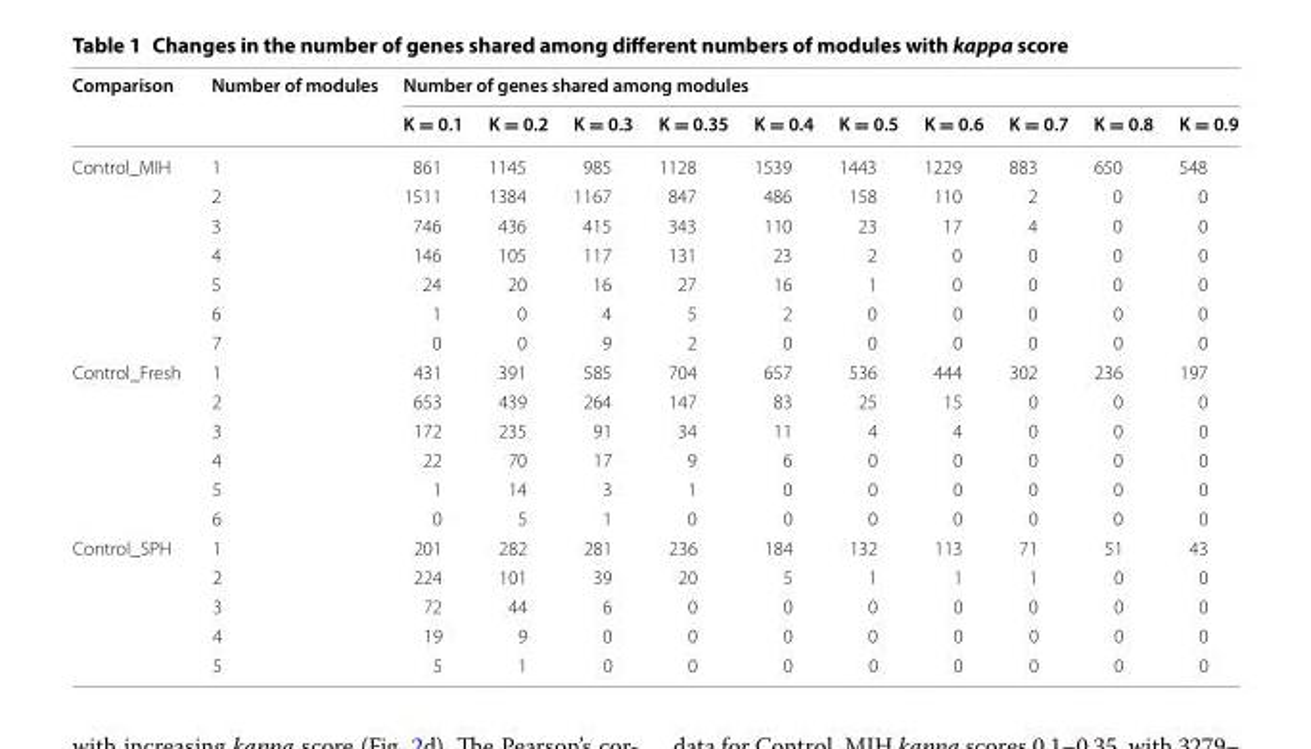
<table><thead><tr><td rowspan="2">Comparison</td><td rowspan="2">Number of modules</td><td colspan="10">Number of genes shared among modules</td></tr><tr><td>K = 0.1</td><td>K = 0.2</td><td>K = 0.3</td><td>K = 0.35</td><td>K = 0.4</td><td>K = 0.5</td><td>K = 0.6</td><td>K = 0.7</td><td>K = 0.8</td><td>K = 0.9</td></tr></thead><tbody><tr><td rowspan="7">Control_MIH</td><td>1</td><td>861</td><td>1145</td><td>985</td><td>1128</td><td>1539</td><td>1443</td><td>1229</td><td>883</td><td>650</td><td>548</td></tr><tr><td>2</td><td>1511</td><td>1384</td><td>1167</td><td>847</td><td>486</td><td>158</td><td>110</td><td>2</td><td>0</td><td>0</td></tr><tr><td>3</td><td>746</td><td>436</td><td>415</td><td>343</td><td>110</td><td>23</td><td>17</td><td>4</td><td>0</td><td>0</td></tr><tr><td>4</td><td>146</td><td>105</td><td>117</td><td>131</td><td>23</td><td>2</td><td>0</td><td>0</td><td>0</td><td>0</td></tr><tr><td>5</td><td>24</td><td>20</td><td>16</td><td>27</td><td>16</td><td>1</td><td>0</td><td>0</td><td>0</td><td>0</td></tr><tr><td>6</td><td>1</td><td>0</td><td>4</td><td>5</td><td>2</td><td>0</td><td>0</td><td>0</td><td>0</td><td>0</td></tr><tr><td>7</td><td>0</td><td>0</td><td>9</td><td>2</td><td>0</td><td>0</td><td>0</td><td>0</td><td>0</td><td>0</td></tr><tr><td rowspan="6">Control_Fresh</td><td>1</td><td>431</td><td>391</td><td>585</td><td>704</td><td>657</td><td>536</td><td>444</td><td>302</td><td>236</td><td>197</td></tr><tr><td>2</td><td>653</td><td>439</td><td>264</td><td>147</td><td>83</td><td>25</td><td>15</td><td>0</td><td>0</td><td>0</td></tr><tr><td>3</td><td>172</td><td>235</td><td>91</td><td>34</td><td>11</td><td>4</td><td>4</td><td>0</td><td>0</td><td>0</td></tr><tr><td>4</td><td>22</td><td>70</td><td>17</td><td>9</td><td>6</td><td>0</td><td>0</td><td>0</td><td>0</td><td>0</td></tr><tr><td>5</td><td>1</td><td>14</td><td>3</td><td>1</td><td>0</td><td>0</td><td>0</td><td>0</td><td>0</td><td>0</td></tr><tr><td>6</td><td>0</td><td>5</td><td>1</td><td>0</td><td>0</td><td>0</td><td>0</td><td>0</td><td>0</td><td>0</td></tr><tr><td rowspan="5">Control_SPH</td><td>1</td><td>201</td><td>282</td><td>281</td><td>236</td><td>184</td><td>132</td><td>113</td><td>71</td><td>51</td><td>43</td></tr><tr><td>2</td><td>224</td><td>101</td><td>39</td><td>20</td><td>5</td><td>1</td><td>1</td><td>1</td><td>0</td><td>0</td></tr><tr><td>3</td><td>72</td><td>44</td><td>6</td><td>0</td><td>0</td><td>0</td><td>0</td><td>0</td><td>0</td><td>0</td></tr><tr><td>4</td><td>19</td><td>9</td><td>0</td><td>0</td><td>0</td><td>0</td><td>0</td><td>0</td><td>0</td><td>0</td></tr><tr><td>5</td><td>5</td><td>1</td><td>0</td><td>0</td><td>0</td><td>0</td><td>0</td><td>0</td><td>0</td><td>0</td></tr></tbody></table>